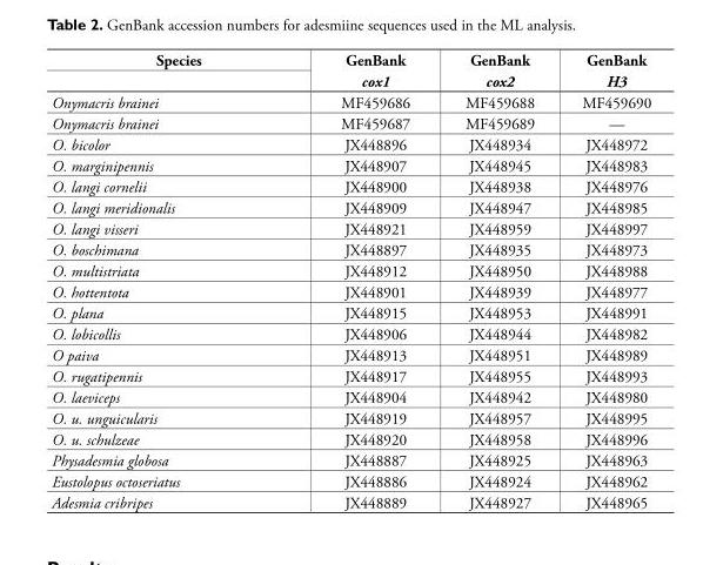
<table><thead><tr><td rowspan="2">Species</td><td rowspan="2">GenBank cox1</td><td rowspan="2">GenBank cox2</td><td rowspan="2">GenBank H3</td></tr><tr></tr></thead><tbody><tr><td>Onymacris brainei</td><td>MF459686</td><td>MF459688</td><td>MF459690</td></tr><tr><td>Onymacris brainei</td><td>MF459687</td><td>MF459689</td><td>—</td></tr><tr><td>O. bicolor</td><td>JX448896</td><td>JX448934</td><td>JX448972</td></tr><tr><td>O. marginipennis</td><td>JX448907</td><td>JX448945</td><td>JX448983</td></tr><tr><td>O. langi cornelii</td><td>JX448900</td><td>JX448938</td><td>JX448976</td></tr><tr><td>O. langi meridionalis</td><td>JX448909</td><td>JX448947</td><td>JX448985</td></tr><tr><td>O. langi visseri</td><td>JX448921</td><td>JX448959</td><td>JX448997</td></tr><tr><td>O. boschimana</td><td>JX448897</td><td>JX448935</td><td>JX448973</td></tr><tr><td>O. multistriata</td><td>JX448912</td><td>JX448950</td><td>JX448988</td></tr><tr><td>O. hottentota</td><td>JX448901</td><td>JX448939</td><td>JX448977</td></tr><tr><td>O. plana</td><td>JX448915</td><td>JX448953</td><td>JX448991</td></tr><tr><td>O. lobicollis</td><td>JX448906</td><td>JX448944</td><td>JX448982</td></tr><tr><td>O paiva</td><td>JX448913</td><td>JX448951</td><td>JX448989</td></tr><tr><td>O. rugatipennis</td><td>JX448917</td><td>JX448955</td><td>JX448993</td></tr><tr><td>O. laeviceps</td><td>JX448904</td><td>JX448942</td><td>JX448980</td></tr><tr><td>O. u. unguicularis</td><td>JX448919</td><td>JX448957</td><td>JX448995</td></tr><tr><td>O. u. schulzeae</td><td>JX448920</td><td>JX448958</td><td>JX448996</td></tr><tr><td>Physadesmia globosa</td><td>JX448887</td><td>JX448925</td><td>JX448963</td></tr><tr><td>Eustolopus octoseriatus</td><td>JX448886</td><td>JX448924</td><td>JX448962</td></tr><tr><td>Adesmia cribripes</td><td>JX448889</td><td>JX448927</td><td>JX448965</td></tr></tbody></table>